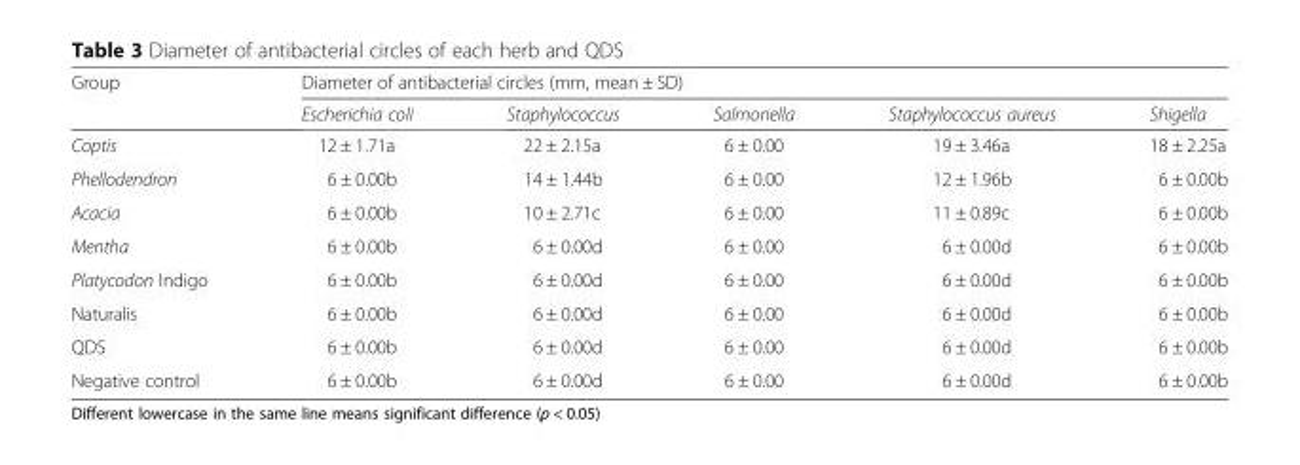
<table><thead><tr><td rowspan="2">Group</td><td colspan="5">Diameter of antibacterial circles (mm, mean ± SD)</td></tr><tr><td>Escherichia coli</td><td>Staphylococcus</td><td>Salmonella</td><td>Staphylococcus aureus</td><td>Shigella</td></tr></thead><tbody><tr><td>Coptis</td><td>12 ± 1.71a</td><td>22 ± 2.15a</td><td>6 ± 0.00</td><td>19 ± 3.46a</td><td>18 ± 2.25a</td></tr><tr><td>Phellodendron</td><td>6 ± 0.00b</td><td>14 ± 1.44b</td><td>6 ± 0.00</td><td>12 ± 1.96b</td><td>6 ± 0.00b</td></tr><tr><td>Acacia</td><td>6 ± 0.00b</td><td>10 ± 2.71c</td><td>6 ± 0.00</td><td>11 ± 0.89c</td><td>6 ± 0.00b</td></tr><tr><td>Mentha</td><td>6 ± 0.00b</td><td>6 ± 0.00d</td><td>6 ± 0.00</td><td>6 ± 0.00d</td><td>6 ± 0.00b</td></tr><tr><td>Platycodon Indigo</td><td>6 ± 0.00b</td><td>6 ± 0.00d</td><td>6 ± 0.00</td><td>6 ± 0.00d</td><td>6 ± 0.00b</td></tr><tr><td>Naturalis</td><td>6 ± 0.00b</td><td>6 ± 0.00d</td><td>6 ± 0.00</td><td>6 ± 0.00d</td><td>6 ± 0.00b</td></tr><tr><td>QDS</td><td>6 ± 0.00b</td><td>6 ± 0.00d</td><td>6 ± 0.00</td><td>6 ± 0.00d</td><td>6 ± 0.00b</td></tr><tr><td>Negative control</td><td>6 ± 0.00b</td><td>6 ± 0.00d</td><td>6 ± 0.00</td><td>6 ± 0.00d</td><td>6 ± 0.00b</td></tr></tbody></table>